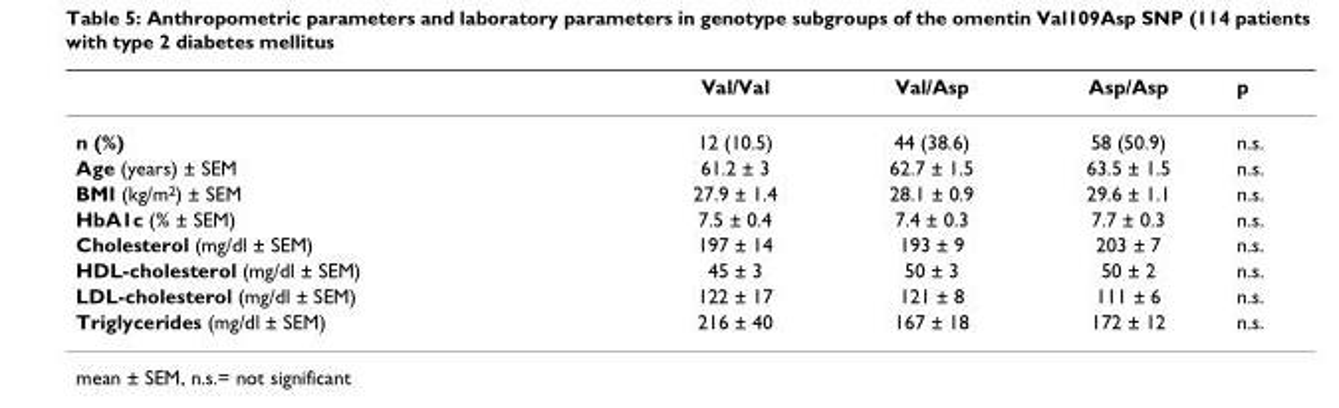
<table><thead><tr><td></td><td>Val/Val</td><td>Val/Asp</td><td>Asp/Asp</td><td>p</td></tr></thead><tbody><tr><td>n (%)</td><td>12 (10.5)</td><td>44 (38.6)</td><td>58 (50.9)</td><td>n.s.</td></tr><tr><td>Age (years) ± SEM</td><td>61.2 ± 3</td><td>62.7 ± 1.5</td><td>63.5 ± 1.5</td><td>n.s.</td></tr><tr><td>BMI (kg/m<sup>2</sup>) ± SEM</td><td>27.9 ± 1.4</td><td>28.1 ± 0.9</td><td>29.6 ± 1.1</td><td>n.s.</td></tr><tr><td>HbA1c (% ± SEM)</td><td>7.5 ± 0.4</td><td>7.4 ± 0.3</td><td>7.7 ± 0.3</td><td>n.s.</td></tr><tr><td>Cholesterol (mg/dl ± SEM)</td><td>197 ± 14</td><td>193 ± 9</td><td>203 ± 7</td><td>n.s.</td></tr><tr><td>HDL-cholesterol (mg/dl ± SEM)</td><td>45 ± 3</td><td>50 ± 3</td><td>50 ± 2</td><td>n.s.</td></tr><tr><td>LDL-cholesterol (mg/dl ± SEM)</td><td>122 ± 17</td><td>121 ± 8</td><td>111 ± 6</td><td>n.s.</td></tr><tr><td>Triglycerides (mg/dl ± SEM)</td><td>216 ± 40</td><td>167 ± 18</td><td>172 ± 12</td><td>n.s.</td></tr></tbody></table>